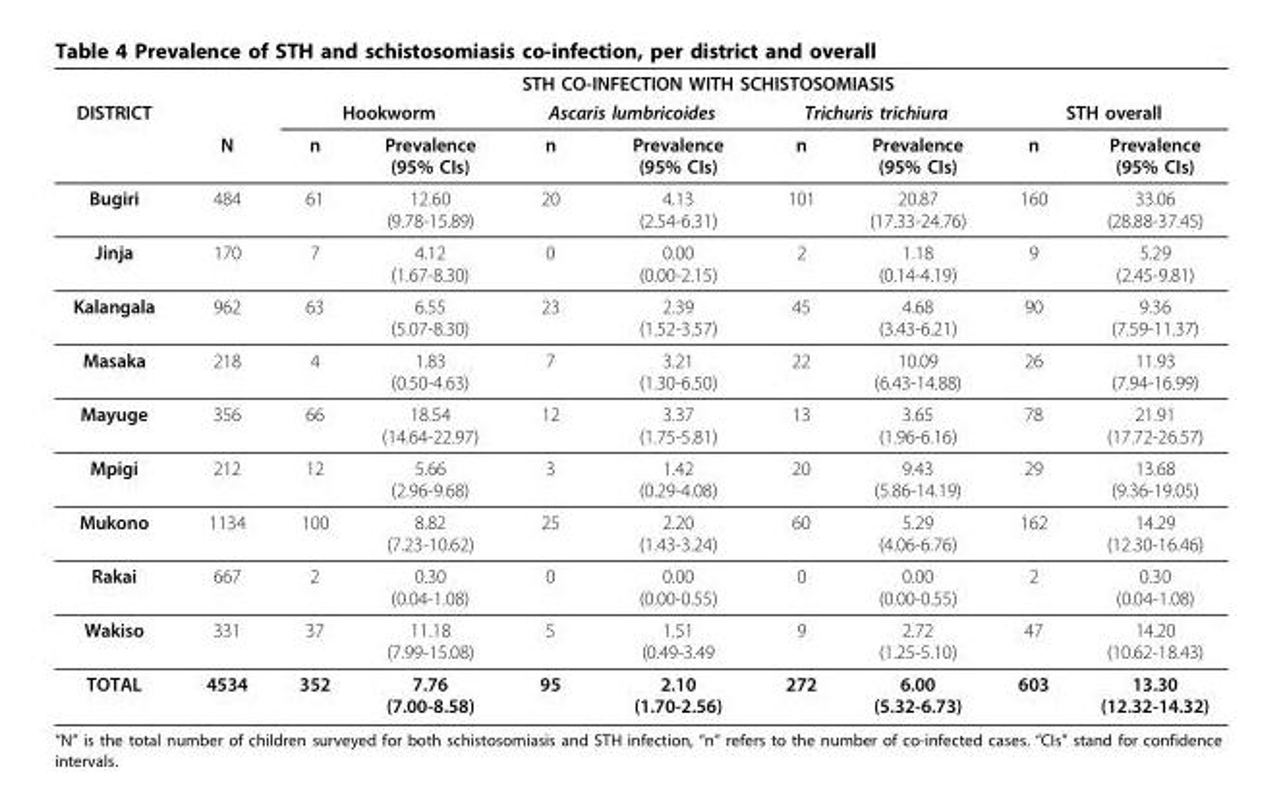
<table><thead><tr><td rowspan="3">DISTRICT</td><td colspan="9">STH CO-INFECTION WITH SCHISTOSOMIASIS</td></tr><tr><td rowspan="2">N</td><td colspan="2">Hookworm</td><td colspan="2">Ascaris lumbricoides</td><td colspan="2">Trichuris trichiura</td><td colspan="2">STH overall</td></tr><tr><td>n</td><td>Prevalence (95% CIs)</td><td>n</td><td>Prevalence (95% CIs)</td><td>n</td><td>Prevalence (95% CIs)</td><td>n</td><td>Prevalence (95% CIs)</td></tr></thead><tbody><tr><td>Bugiri</td><td>484</td><td>61</td><td>12.60 (9.78-15.89)</td><td>20</td><td>4.13 (2.54-6.31)</td><td>101</td><td>20.87 (17.33-24.76)</td><td>160</td><td>33.06 (28.88-37.45)</td></tr><tr><td>Jinja</td><td>170</td><td>7</td><td>4.12 (1.67-8.30)</td><td>0</td><td>0.00 (0.00-2.15)</td><td>2</td><td>1.18 (0.14-4.19)</td><td>9</td><td>5.29 (2.45-9.81)</td></tr><tr><td>Kalangala</td><td>962</td><td>63</td><td>6.55 (5.07-8.30)</td><td>23</td><td>2.39 (1.52-3.57)</td><td>45</td><td>4.68 (3.43-6.21)</td><td>90</td><td>9.36 (7.59-11.37)</td></tr><tr><td>Masaka</td><td>218</td><td>4</td><td>1.83 (0.50-4.63)</td><td>7</td><td>3.21 (1.30-6.50)</td><td>22</td><td>10.09 (6.43-14.88)</td><td>26</td><td>11.93 (7.94-16.99)</td></tr><tr><td>Mayuge</td><td>356</td><td>66</td><td>18.54 (14.64-22.97)</td><td>12</td><td>3.37 (1.75-5.81)</td><td>13</td><td>3.65 (1.96-6.16)</td><td>78</td><td>21.91 (17.72-26.57)</td></tr><tr><td>Mpigi</td><td>212</td><td>12</td><td>5.66 (2.96-9.68)</td><td>3</td><td>1.42 (0.29-4.08)</td><td>20</td><td>9.43 (5.86-14.19)</td><td>29</td><td>13.68 (9.36-19.05)</td></tr><tr><td>Mukono</td><td>1134</td><td>100</td><td>8.82 (7.23-10.62)</td><td>25</td><td>2.20 (1.43-3.24)</td><td>60</td><td>5.29 (4.06-6.76)</td><td>162</td><td>14.29 (12.30-16.46)</td></tr><tr><td>Rakai</td><td>667</td><td>2</td><td>0.30 (0.04-1.08)</td><td>0</td><td>0.00 (0.00-0.55)</td><td>0</td><td>0.00 (0.00-0.55)</td><td>2</td><td>0.30 (0.04-1.08)</td></tr><tr><td>Wakiso</td><td>331</td><td>37</td><td>11.18 (7.99-15.08)</td><td>5</td><td>1.51 (0.49-3.49</td><td>9</td><td>2.72 (1.25-5.10)</td><td>47</td><td>14.20 (10.62-18.43)</td></tr><tr><td>TOTAL</td><td>4534</td><td>352</td><td>7.76 (7.00-8.58)</td><td>95</td><td>2.10 (1.70-2.56)</td><td>272</td><td>6.00 (5.32-6.73)</td><td>603</td><td>13.30 (12.32-14.32)</td></tr></tbody></table>